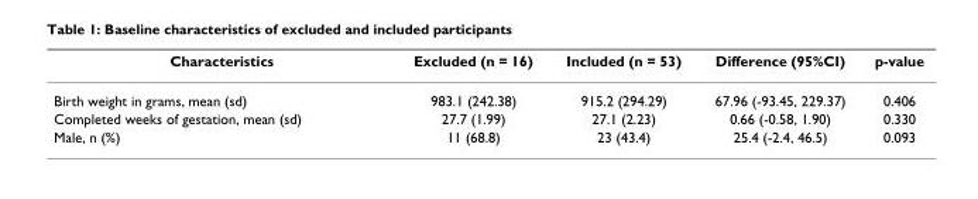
<table><thead><tr><td>Characteristics</td><td>Excluded (n = 16)</td><td>Included (n = 53)</td><td>Difference (95%CI)</td><td>p-value</td></tr></thead><tbody><tr><td>Birth weight in grams, mean (sd)</td><td>983.1 (242.38)</td><td>915.2 (294.29)</td><td>67.96 (-93.45, 229.37)</td><td>0.406</td></tr><tr><td>Completed weeks of gestation, mean (sd)</td><td>27.7 (1.99)</td><td>27.1 (2.23)</td><td>0.66 (-0.58, 1.90)</td><td>0.330</td></tr><tr><td>Male, n (%)</td><td>11 (68.8)</td><td>23 (43.4)</td><td>25.4 (-2.4, 46.5)</td><td>0.093</td></tr></tbody></table>